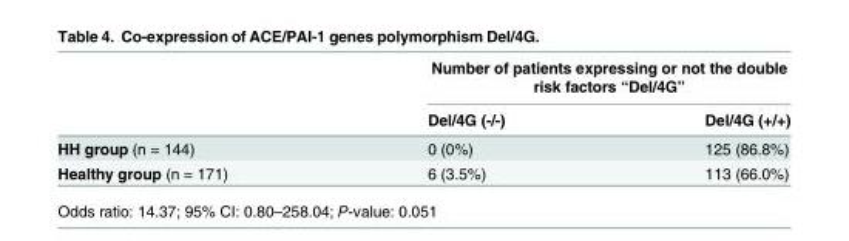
<table><thead><tr><td rowspan="2"></td><td colspan="2">Number of patients expressing or not the double risk factors “Del/4G”</td></tr><tr><td>Del/4G (-/-)</td><td>Del/4G (+/+)</td></tr></thead><tbody><tr><td>HH group (n = 144)</td><td>0 (0%)</td><td>125 (86.8%)</td></tr><tr><td>Healthy group (n = 171)</td><td>6 (3.5%)</td><td>113 (66.0%)</td></tr></tbody></table>